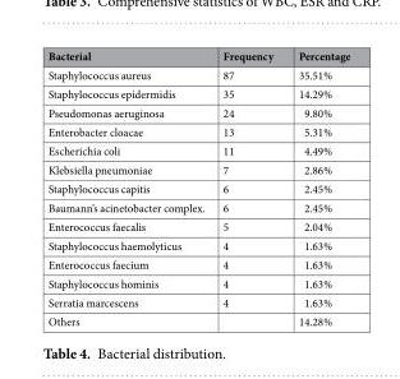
<table><thead><tr><td>Bacterial</td><td>Frequency</td><td>Percentage</td></tr></thead><tbody><tr><td>Staphylococcus aureus</td><td>87</td><td>35.51%</td></tr><tr><td>Staphylococcus epidermidis</td><td>35</td><td>14.29%</td></tr><tr><td>Pseudomonas aeruginosa</td><td>24</td><td>9.80%</td></tr><tr><td>Enterobacter cloacae</td><td>13</td><td>5.31%</td></tr><tr><td>Escherichia coli</td><td>11</td><td>4.49%</td></tr><tr><td>Klebsiella pneumoniae</td><td>7</td><td>2.86%</td></tr><tr><td>Staphylococcus capitis</td><td>6</td><td>2.45%</td></tr><tr><td>Baumann’s acinetobacter complex.</td><td>6</td><td>2.45%</td></tr><tr><td>Enterococcus faecalis</td><td>5</td><td>2.04%</td></tr><tr><td>Staphylococcus haemolyticus</td><td>4</td><td>1.63%</td></tr><tr><td>Enterococcus faecium</td><td>4</td><td>1.63%</td></tr><tr><td>Staphylococcus hominis</td><td>4</td><td>1.63%</td></tr><tr><td>Serratia marcescens</td><td>4</td><td>1.63%</td></tr><tr><td>Others</td><td></td><td>14.28%</td></tr></tbody></table>